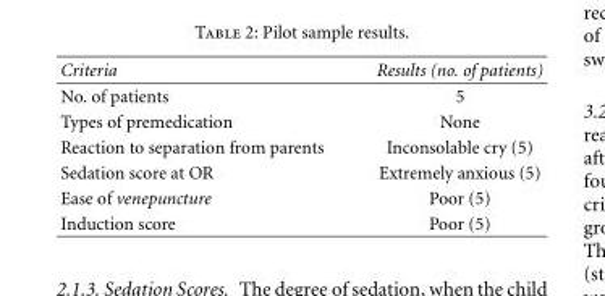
<table><thead><tr><td>Criteria</td><td>Results (no. of patients)</td></tr></thead><tbody><tr><td>No. of patients</td><td>5</td></tr><tr><td>Types of premedication</td><td>None</td></tr><tr><td>Reaction to separation from parents</td><td>Inconsolable cry (5)</td></tr><tr><td>Sedation score at OR</td><td>Extremely anxious (5)</td></tr><tr><td>Ease of venepuncture</td><td>Poor (5)</td></tr><tr><td>Induction score</td><td>Poor (5)</td></tr></tbody></table>